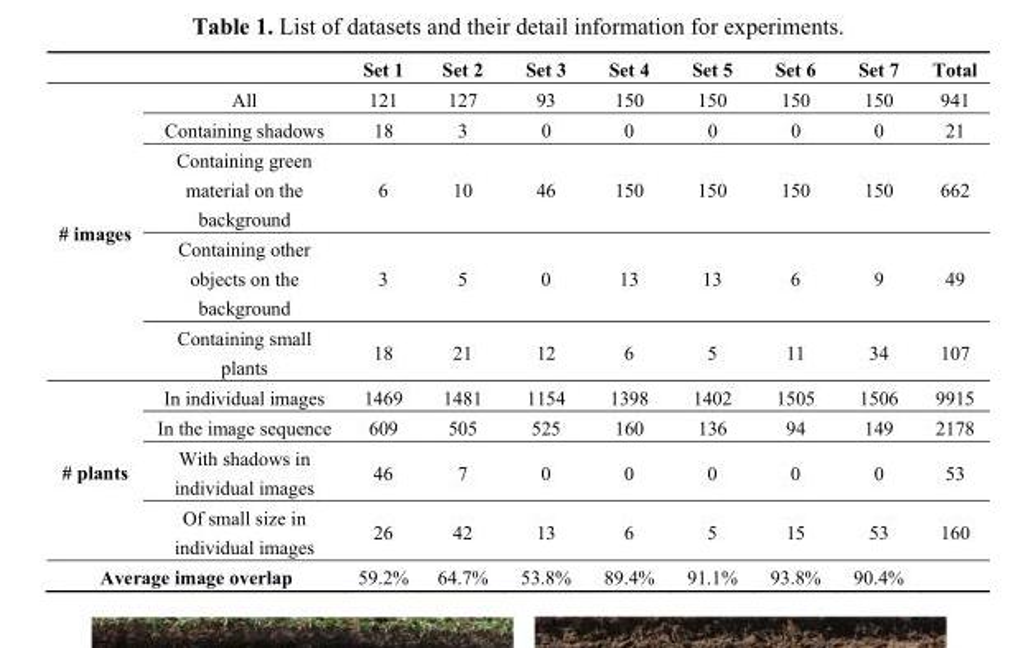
<table><thead><tr><td></td><td></td><td>Set 1</td><td>Set 2</td><td>Set 3</td><td>Set 4</td><td>Set 5</td><td>Set 6</td><td>Set 7</td><td>Total</td></tr></thead><tbody><tr><td rowspan="5"># images</td><td>All</td><td>121</td><td>127</td><td>93</td><td>150</td><td>150</td><td>150</td><td>150</td><td>941</td></tr><tr><td>Containing shadows</td><td>18</td><td>3</td><td>0</td><td>0</td><td>0</td><td>0</td><td>0</td><td>21</td></tr><tr><td>Containing green material on the background</td><td>6</td><td>10</td><td>46</td><td>150</td><td>150</td><td>150</td><td>150</td><td>662</td></tr><tr><td>Containing other objects on the background</td><td>3</td><td>5</td><td>0</td><td>13</td><td>13</td><td>6</td><td>9</td><td>49</td></tr><tr><td>Containing small plants</td><td>18</td><td>21</td><td>12</td><td>6</td><td>5</td><td>11</td><td>34</td><td>107</td></tr><tr><td rowspan="4"># plants</td><td>In individual images</td><td>1469</td><td>1481</td><td>1154</td><td>1398</td><td>1402</td><td>1505</td><td>1506</td><td>9915</td></tr><tr><td>In the image sequence</td><td>609</td><td>505</td><td>525</td><td>160</td><td>136</td><td>94</td><td>149</td><td>2178</td></tr><tr><td>With shadows in individual images</td><td>46</td><td>7</td><td>0</td><td>0</td><td>0</td><td>0</td><td>0</td><td>53</td></tr><tr><td>Of small size in individual images</td><td>26</td><td>42</td><td>13</td><td>6</td><td>5</td><td>15</td><td>53</td><td>160</td></tr><tr><td colspan="2">Average image overlap</td><td>59.2%</td><td>64.7%</td><td>53.8%</td><td>89.4%</td><td>91.1%</td><td>93.8%</td><td>90.4%</td><td></td></tr></tbody></table>